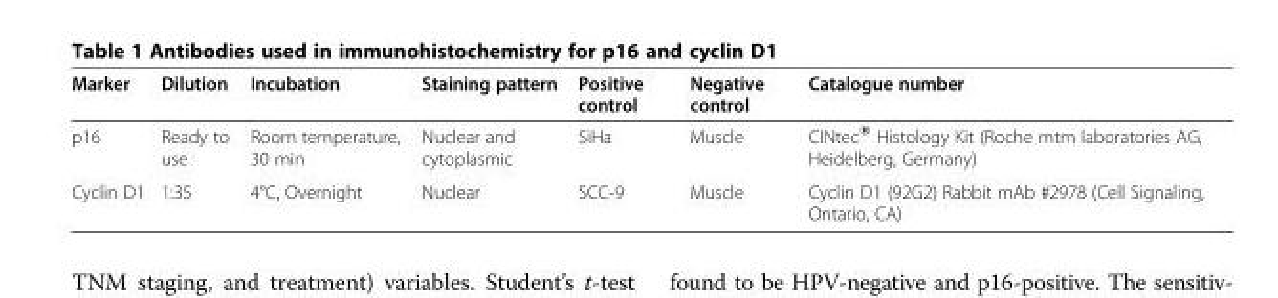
<table><thead><tr><td>Marker</td><td>Dilution</td><td>Incubation</td><td>Staining pattern</td><td>Positive control</td><td>Negative control</td><td>Catalogue number</td></tr></thead><tbody><tr><td>p16</td><td>Ready to use</td><td>Room temperature, 30 min</td><td>Nuclear and cytoplasmic</td><td>SiHa</td><td>Muscle</td><td>CINtec® Histology Kit (Roche mtm laboratories AG, Heidelberg, Germany)</td></tr><tr><td>Cyclin D1</td><td>1:35</td><td>4°C, Overnight</td><td>Nuclear</td><td>SCC-9</td><td>Muscle</td><td>Cyclin D1 (92G2) Rabbit mAb #2978 (Cell Signaling, Ontario, CA)</td></tr></tbody></table>